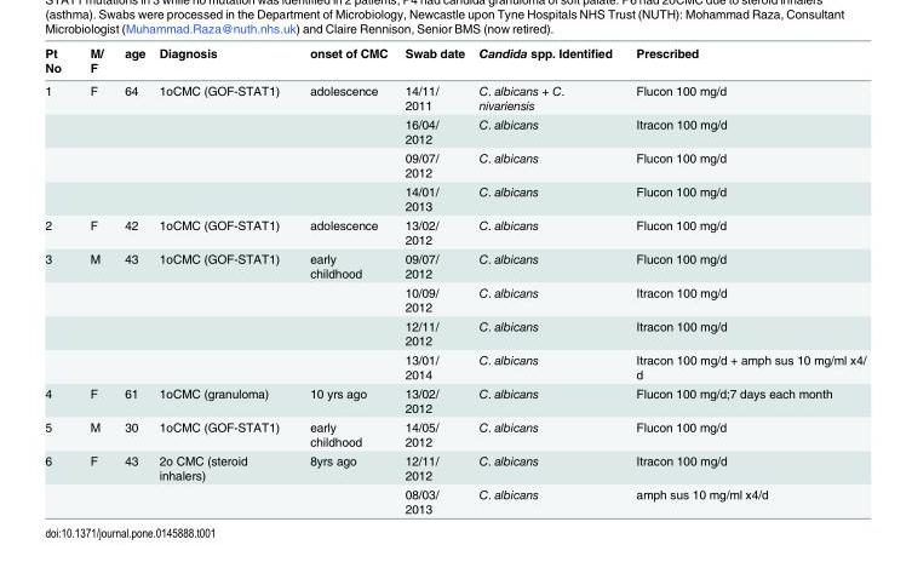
<table><thead><tr><td>Pt No</td><td>M/ F</td><td>age</td><td>Diagnosis</td><td>onset of CMC</td><td>Swab date</td><td>Candida spp. Identified</td><td>Prescribed</td></tr></thead><tbody><tr><td rowspan="4">1</td><td>F</td><td>64</td><td>1oCMC (GOF-STAT1)</td><td>adolescence</td><td>14/11/ 2011</td><td>C. albicans + C. nivariensis</td><td>Flucon 100 mg/d</td></tr><tr><td></td><td></td><td></td><td></td><td>16/04/ 2012</td><td>C. albicans</td><td>Itracon 100 mg/d</td></tr><tr><td></td><td></td><td></td><td></td><td>09/07/ 2012</td><td>C. albicans</td><td>Flucon 100 mg/d</td></tr><tr><td></td><td></td><td></td><td></td><td>14/01/ 2013</td><td>C. albicans</td><td>Flucon 100 mg/d</td></tr><tr><td>2</td><td>F</td><td>42</td><td>1oCMC (GOF-STAT1)</td><td>adolescence</td><td>13/02/ 2012</td><td>C. albicans</td><td>Flucon 100 mg/d</td></tr><tr><td rowspan="4">3</td><td>M</td><td>43</td><td>1oCMC (GOF-STAT1)</td><td>early childhood</td><td>09/07/ 2012</td><td>C. albicans</td><td>Flucon 100 mg/d</td></tr><tr><td></td><td></td><td></td><td></td><td>10/09/ 2012</td><td>C. albicans</td><td>Itracon 100 mg/d</td></tr><tr><td></td><td></td><td></td><td></td><td>12/11/ 2012</td><td>C. albicans</td><td>Itracon 100 mg/d</td></tr><tr><td></td><td></td><td></td><td></td><td>13/01/ 2014</td><td>C. albicans</td><td>Itracon 100 mg/d + amph sus 10 mg/ml x4/ d</td></tr><tr><td>4</td><td>F</td><td>61</td><td>1oCMC (granuloma)</td><td>10 yrs ago</td><td>13/02/ 2012</td><td>C. albicans</td><td>Flucon 100 mg/d;7 days each month</td></tr><tr><td>5</td><td>M</td><td>30</td><td>1oCMC (GOF-STAT1)</td><td>early childhood</td><td>14/05/ 2012</td><td>C. albicans</td><td>Flucon 100 mg/d</td></tr><tr><td rowspan="2">6</td><td>F</td><td>43</td><td>2o CMC (steroid inhalers)</td><td>8yrs ago</td><td>12/11/ 2012</td><td>C. albicans</td><td>Itracon 100 mg/d</td></tr><tr><td></td><td></td><td></td><td></td><td>08/03/ 2013</td><td>C. albicans</td><td>amph sus 10 mg/ml x4/d</td></tr></tbody></table>